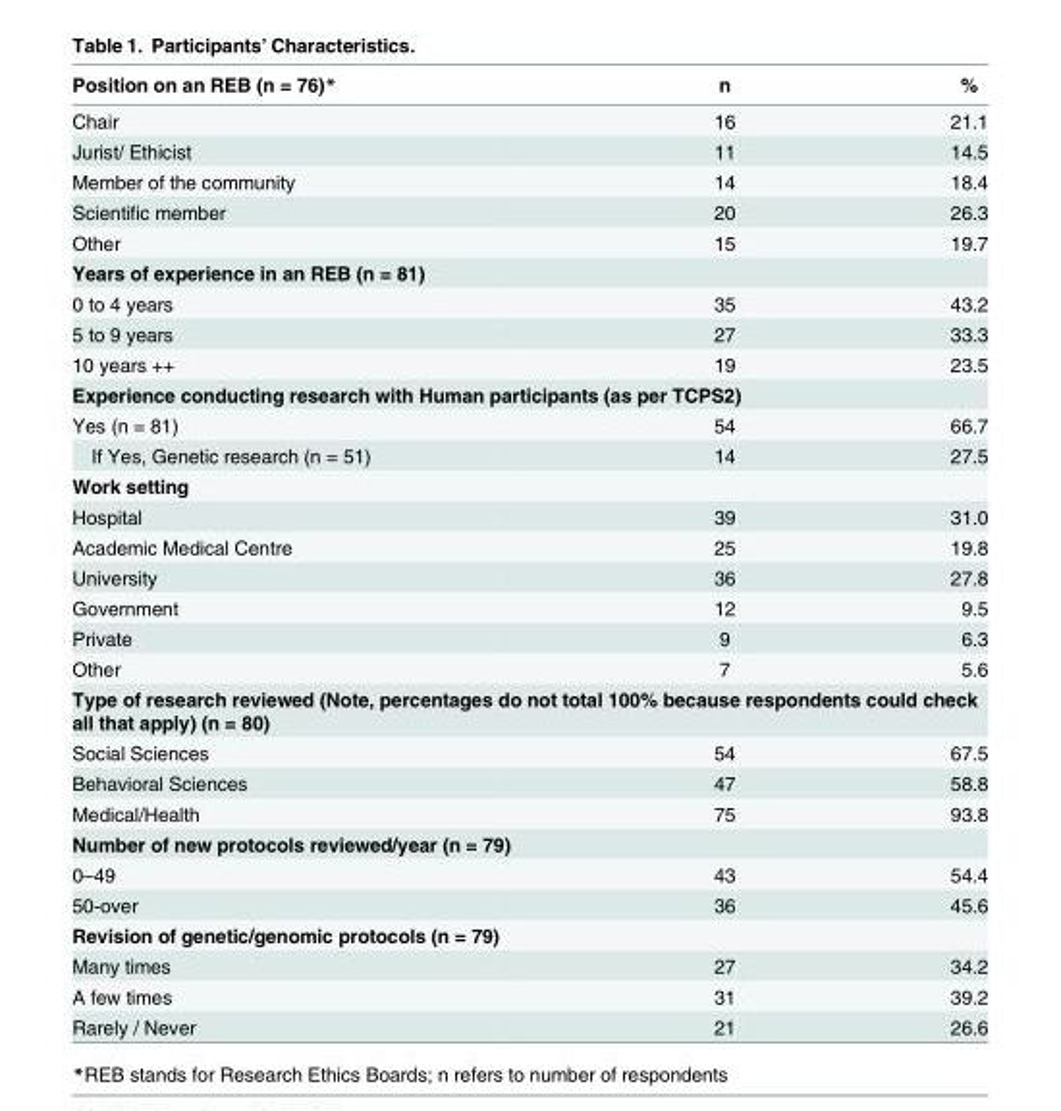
<table><thead><tr><td>Position on an REB (n = 76)*</td><td>n</td><td>%</td></tr></thead><tbody><tr><td>Chair</td><td>16</td><td>21.1</td></tr><tr><td>Jurist/ Ethicist</td><td>11</td><td>14.5</td></tr><tr><td>Member of the community</td><td>14</td><td>18.4</td></tr><tr><td>Scientific member</td><td>20</td><td>26.3</td></tr><tr><td>Other</td><td>15</td><td>19.7</td></tr><tr><td colspan="3">Years of experience in an REB (n = 81)</td></tr><tr><td>0 to 4 years</td><td>35</td><td>43.2</td></tr><tr><td>5 to 9 years</td><td>27</td><td>33.3</td></tr><tr><td>10 years ++</td><td>19</td><td>23.5</td></tr><tr><td colspan="3">Experience conducting research with Human participants (as per TCPS2)</td></tr><tr><td>Yes (n = 81)</td><td>54</td><td>66.7</td></tr><tr><td>If Yes, Genetic research (n = 51)</td><td>14</td><td>27.5</td></tr><tr><td colspan="3">Work setting</td></tr><tr><td>Hospital</td><td>39</td><td>31.0</td></tr><tr><td>Academic Medical Centre</td><td>25</td><td>19.8</td></tr><tr><td>University</td><td>36</td><td>27.8</td></tr><tr><td>Government</td><td>12</td><td>9.5</td></tr><tr><td>Private</td><td>9</td><td>6.3</td></tr><tr><td>Other</td><td>7</td><td>5.6</td></tr><tr><td colspan="3">Type of research reviewed (Note, percentages do not total 100% because respondents could check all that apply) (n = 80)</td></tr><tr><td>Social Sciences</td><td>54</td><td>67.5</td></tr><tr><td>Behavioral Sciences</td><td>47</td><td>58.8</td></tr><tr><td>Medical/Health</td><td>75</td><td>93.8</td></tr><tr><td colspan="3">Number of new protocols reviewed/year (n = 79)</td></tr><tr><td>0–49</td><td>43</td><td>54.4</td></tr><tr><td>50-over</td><td>36</td><td>45.6</td></tr><tr><td colspan="3">Revision of genetic/genomic protocols (n = 79)</td></tr><tr><td>Many times</td><td>27</td><td>34.2</td></tr><tr><td>A few times</td><td>31</td><td>39.2</td></tr><tr><td>Rarely / Never</td><td>21</td><td>26.6</td></tr></tbody></table>